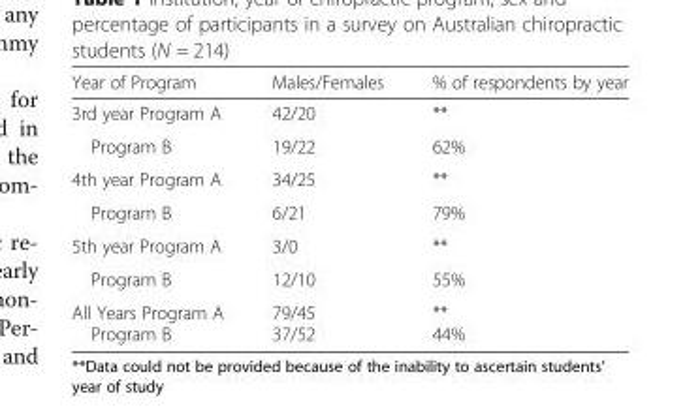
<table><thead><tr><td>Year of Program</td><td>Males/Females</td><td>% of respondents by year</td></tr></thead><tbody><tr><td>3rd year Program A</td><td>42/20</td><td>**</td></tr><tr><td>Program B</td><td>19/22</td><td>62%</td></tr><tr><td>4th year Program A</td><td>34/25</td><td>**</td></tr><tr><td>Program B</td><td>6/21</td><td>79%</td></tr><tr><td>5th year Program A</td><td>3/0</td><td>**</td></tr><tr><td>Program B</td><td>12/10</td><td>55%</td></tr><tr><td>All Years Program A Program B</td><td>79/45 37/52</td><td>** 44%</td></tr></tbody></table>